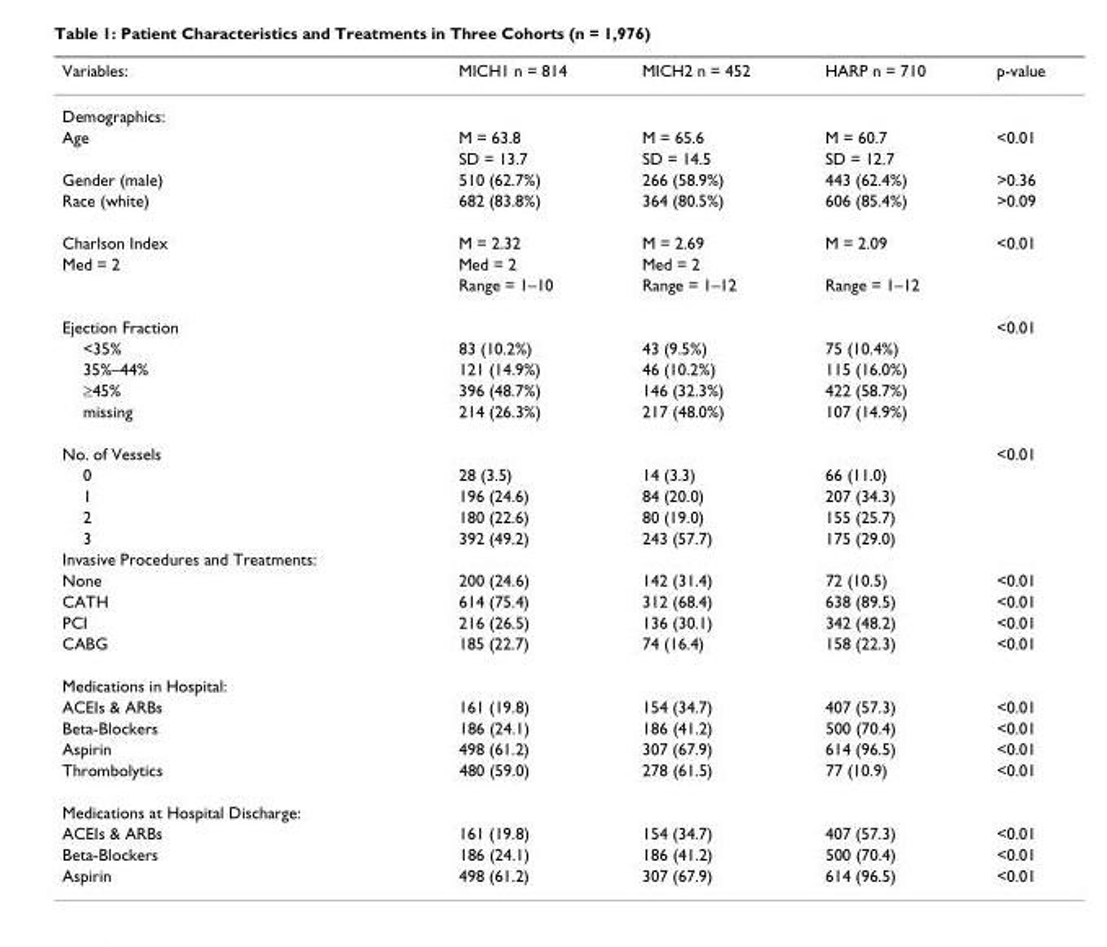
<table><thead><tr><td>Variables:</td><td>MICH1 n = 814</td><td>MICH2 n = 452</td><td>HARP n = 710</td><td>p-value</td></tr></thead><tbody><tr><td colspan="5">Demographics:</td></tr><tr><td rowspan="2">Age</td><td>M = 63.8</td><td>M = 65.6</td><td>M = 60.7</td><td>&lt;0.01</td></tr><tr><td>SD = 13.7</td><td>SD = 14.5</td><td>SD = 12.7</td><td></td></tr><tr><td>Gender (male)</td><td>510 (62.7%)</td><td>266 (58.9%)</td><td>443 (62.4%)</td><td>&gt;0.36</td></tr><tr><td>Race (white)</td><td>682 (83.8%)</td><td>364 (80.5%)</td><td>606 (85.4%)</td><td>&gt;0.09</td></tr><tr><td>Charlson Index</td><td>M = 2.32</td><td>M = 2.69</td><td>M = 2.09</td><td>&lt;0.01</td></tr><tr><td rowspan="2">Med = 2</td><td>Med = 2</td><td>Med = 2</td><td></td><td></td></tr><tr><td>Range = 1–10</td><td>Range = 1–12</td><td>Range = 1–12</td><td></td></tr><tr><td>Ejection Fraction</td><td></td><td></td><td></td><td>&lt;0.01</td></tr><tr><td>&lt;35%</td><td>83 (10.2%)</td><td>43 (9.5%)</td><td>75 (10.4%)</td><td></td></tr><tr><td>35%–44%</td><td>121 (14.9%)</td><td>46 (10.2%)</td><td>115 (16.0%)</td><td></td></tr><tr><td>≥45%</td><td>396 (48.7%)</td><td>146 (32.3%)</td><td>422 (58.7%)</td><td></td></tr><tr><td>missing</td><td>214 (26.3%)</td><td>217 (48.0%)</td><td>107 (14.9%)</td><td></td></tr><tr><td>No. of Vessels</td><td></td><td></td><td></td><td>&lt;0.01</td></tr><tr><td>0</td><td>28 (3.5)</td><td>14 (3.3)</td><td>66 (11.0)</td><td></td></tr><tr><td>1</td><td>196 (24.6)</td><td>84 (20.0)</td><td>207 (34.3)</td><td></td></tr><tr><td>2</td><td>180 (22.6)</td><td>80 (19.0)</td><td>155 (25.7)</td><td></td></tr><tr><td>3</td><td>392 (49.2)</td><td>243 (57.7)</td><td>175 (29.0)</td><td></td></tr><tr><td colspan="5">Invasive Procedures and Treatments:</td></tr><tr><td>None</td><td>200 (24.6)</td><td>142 (31.4)</td><td>72 (10.5)</td><td>&lt;0.01</td></tr><tr><td>CATH</td><td>614 (75.4)</td><td>312 (68.4)</td><td>638 (89.5)</td><td>&lt;0.01</td></tr><tr><td>PCI</td><td>216 (26.5)</td><td>136 (30.1)</td><td>342 (48.2)</td><td>&lt;0.01</td></tr><tr><td>CABG</td><td>185 (22.7)</td><td>74 (16.4)</td><td>158 (22.3)</td><td>&lt;0.01</td></tr><tr><td colspan="5">Medications in Hospital:</td></tr><tr><td>ACEIs &amp; ARBs</td><td>161 (19.8)</td><td>154 (34.7)</td><td>407 (57.3)</td><td>&lt;0.01</td></tr><tr><td>Beta-Blockers</td><td>186 (24.1)</td><td>186 (41.2)</td><td>500 (70.4)</td><td>&lt;0.01</td></tr><tr><td>Aspirin</td><td>498 (61.2)</td><td>307 (67.9)</td><td>614 (96.5)</td><td>&lt;0.01</td></tr><tr><td>Thrombolytics</td><td>480 (59.0)</td><td>278 (61.5)</td><td>77 (10.9)</td><td>&lt;0.01</td></tr><tr><td colspan="5">Medications at Hospital Discharge:</td></tr><tr><td>ACEIs &amp; ARBs</td><td>161 (19.8)</td><td>154 (34.7)</td><td>407 (57.3)</td><td>&lt;0.01</td></tr><tr><td>Beta-Blockers</td><td>186 (24.1)</td><td>186 (41.2)</td><td>500 (70.4)</td><td>&lt;0.01</td></tr><tr><td>Aspirin</td><td>498 (61.2)</td><td>307 (67.9)</td><td>614 (96.5)</td><td>&lt;0.01</td></tr></tbody></table>